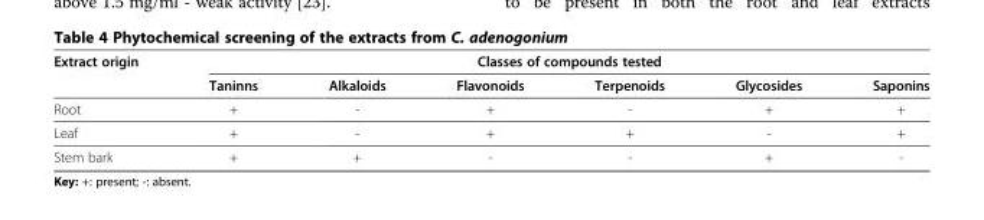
<table><thead><tr><td rowspan="2">Extract origin</td><td colspan="6">Classes of compounds tested</td></tr><tr><td>Taninns</td><td>Alkaloids</td><td>Flavonoids</td><td>Terpenoids</td><td>Glycosides</td><td>Saponins</td></tr></thead><tbody><tr><td>Root</td><td>+</td><td>-</td><td>+</td><td>-</td><td>+</td><td>+</td></tr><tr><td>Leaf</td><td>+</td><td>-</td><td>+</td><td>+</td><td>-</td><td>+</td></tr><tr><td>Stem bark</td><td>+</td><td>+</td><td>-</td><td>-</td><td>+</td><td>-</td></tr></tbody></table>